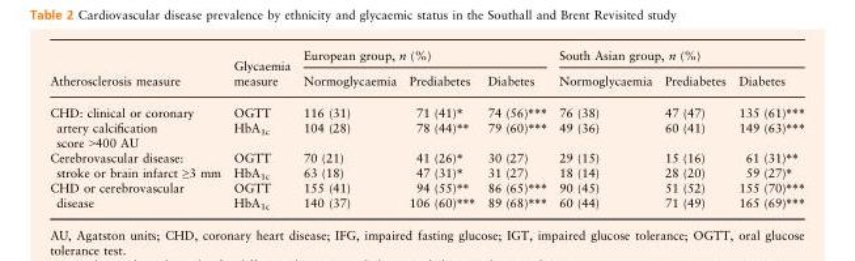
<table><thead><tr><td rowspan="2">Atherosclerosis measure</td><td rowspan="2">Glycaemia measure</td><td colspan="3">European group, n (%)</td><td colspan="3">South Asian group, n (%)</td></tr><tr><td>Normoglycaemia</td><td>Prediabetes</td><td>Diabetes</td><td>Normoglycaemia</td><td>Prediabetes</td><td>Diabetes</td></tr></thead><tbody><tr><td rowspan="2">CHD: clinical or coronary artery calcification score &gt;400 AU</td><td>OGTT</td><td>116 (31)</td><td>71 (41)*</td><td>74 (56)***</td><td>76 (38)</td><td>47 (47)</td><td>135 (61)***</td></tr><tr><td>HbA<sub>1c</sub></td><td>104 (28)</td><td>78 (44)**</td><td>79 (60)***</td><td>49 (36)</td><td>60 (41)</td><td>149 (63)***</td></tr><tr><td rowspan="2">Cerebrovascular disease: stroke or brain infarct ≥3 mm</td><td>OGTT</td><td>70 (21)</td><td>41 (26)*</td><td>30 (27)</td><td>29 (15)</td><td>15 (16)</td><td>61 (31)**</td></tr><tr><td>HbA<sub>1c</sub></td><td>63 (18)</td><td>47 (31)*</td><td>31 (27)</td><td>18 (14)</td><td>28 (20)</td><td>59 (27)*</td></tr><tr><td rowspan="2">CHD or cerebrovascular disease</td><td>OGTT</td><td>155 (41)</td><td>94 (55)**</td><td>86 (65)***</td><td>90 (45)</td><td>51 (52)</td><td>155 (70)***</td></tr><tr><td>HbA<sub>1c</sub></td><td>140 (37)</td><td>106 (60)***</td><td>89 (68)***</td><td>60 (44)</td><td>71 (49)</td><td>165 (69)***</td></tr></tbody></table>